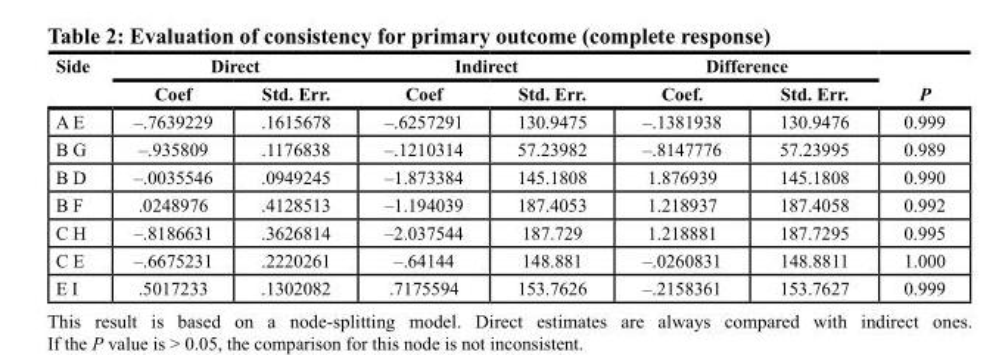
<table><thead><tr><td rowspan="2">Side</td><td colspan="2">Direct</td><td colspan="2">Indirect</td><td colspan="2">Difference</td><td rowspan="2">P</td></tr><tr><td>Coef</td><td>Std. Err.</td><td>Coef</td><td>Std. Err.</td><td>Coef.</td><td>Std. Err.</td></tr></thead><tbody><tr><td>A E</td><td>–.7639229</td><td>.1615678</td><td>–.6257291</td><td>130.9475</td><td>–.1381938</td><td>130.9476</td><td>0.999</td></tr><tr><td>B G</td><td>–.935809</td><td>.1176838</td><td>–.1210314</td><td>57.23982</td><td>–.8147776</td><td>57.23995</td><td>0.989</td></tr><tr><td>B D</td><td>–.0035546</td><td>.0949245</td><td>–1.873384</td><td>145.1808</td><td>1.876939</td><td>145.1808</td><td>0.990</td></tr><tr><td>B F</td><td>.0248976</td><td>.4128513</td><td>–1.194039</td><td>187.4053</td><td>1.218937</td><td>187.4058</td><td>0.992</td></tr><tr><td>C H</td><td>–.8186631</td><td>.3626814</td><td>–2.037544</td><td>187.729</td><td>1.218881</td><td>187.7295</td><td>0.995</td></tr><tr><td>C E</td><td>–.6675231</td><td>.2220261</td><td>–.64144</td><td>148.881</td><td>–.0260831</td><td>148.8811</td><td>1.000</td></tr><tr><td>E I</td><td>.5017233</td><td>.1302082</td><td>.7175594</td><td>153.7626</td><td>–.2158361</td><td>153.7627</td><td>0.999</td></tr></tbody></table>